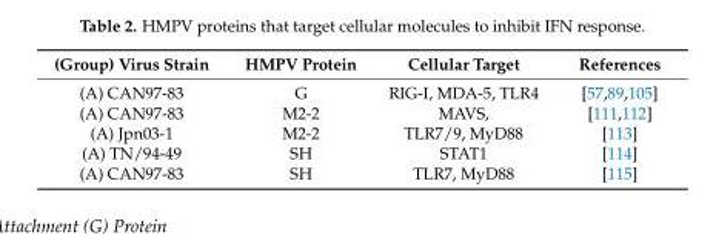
<table><thead><tr><td>(Group) Virus Strain</td><td>HMPV Protein</td><td>Cellular Target</td><td>References</td></tr></thead><tbody><tr><td>(A) CAN97-83</td><td>G</td><td>RIG-I, MDA-5, TLR4</td><td>[57,89,105]</td></tr><tr><td>(A) CAN97-83</td><td>M2-2</td><td>MAVS,</td><td>[111,112]</td></tr><tr><td>(A) Jpn03-1</td><td>M2-2</td><td>TLR7/9, MyD88</td><td>[113]</td></tr><tr><td>(A) TN/94-49</td><td>SH</td><td>STAT1</td><td>[114]</td></tr><tr><td>(A) CAN97-83</td><td>SH</td><td>TLR7, MyD88</td><td>[115]</td></tr></tbody></table>